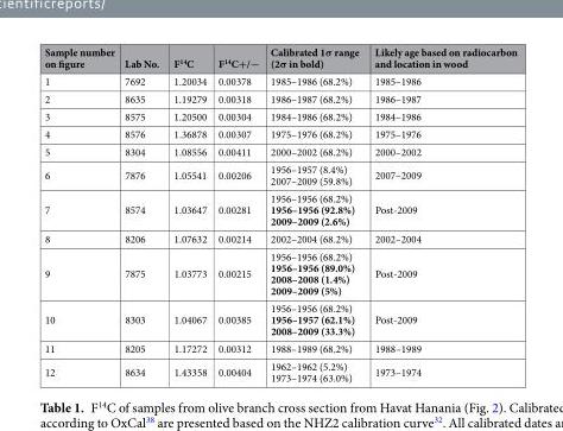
<table><thead><tr><td>Sample number on figure</td><td>Lab No.</td><td>F<sup>14</sup>C</td><td>F<sup>14</sup>C+/−</td><td>Calibrated 1σ range (2σ in bold)</td><td>Likely age based on radiocarbon and location in wood</td></tr></thead><tbody><tr><td>1</td><td>7692</td><td>1.20034</td><td>0.00378</td><td>1985–1986 (68.2%)</td><td>1985–1986</td></tr><tr><td>2</td><td>8635</td><td>1.19279</td><td>0.00318</td><td>1986–1987 (68.2%)</td><td>1986–1987</td></tr><tr><td>3</td><td>8575</td><td>1.20500</td><td>0.00304</td><td>1984–1986 (68.2%)</td><td>1984–1986</td></tr><tr><td>4</td><td>8576</td><td>1.36878</td><td>0.00307</td><td>1975–1976 (68.2%)</td><td>1975–1976</td></tr><tr><td>5</td><td>8304</td><td>1.08556</td><td>0.00411</td><td>2000–2002 (68.2%)</td><td>2000–2002</td></tr><tr><td>6</td><td>7876</td><td>1.05541</td><td>0.00206</td><td>1956–1957 (8.4%) 2007–2009 (59.8%)</td><td>2007–2009</td></tr><tr><td>7</td><td>8574</td><td>1.03647</td><td>0.00281</td><td>1956–1956 (68.2%) 1956–1956 (92.8%) 2009–2009 (2.6%)</td><td>Post-2009</td></tr><tr><td>8</td><td>8206</td><td>1.07632</td><td>0.00214</td><td>2002–2004 (68.2%)</td><td>2002–2004</td></tr><tr><td>9</td><td>7875</td><td>1.03773</td><td>0.00215</td><td>1956–1956 (68.2%) 1956–1956 (89.0%) 2008–2008 (1.4%) 2009–2009 (5%)</td><td>Post-2009</td></tr><tr><td>10</td><td>8303</td><td>1.04067</td><td>0.00385</td><td>1956–1956 (68.2%) 1956–1957 (62.1%) 2008–2009 (33.3%)</td><td>Post-2009</td></tr><tr><td>11</td><td>8205</td><td>1.17272</td><td>0.00312</td><td>1988–1989 (68.2%)</td><td>1988–1989</td></tr><tr><td>12</td><td>8634</td><td>1.43358</td><td>0.00404</td><td>1962–1962 (5.2%) 1973–1974 (63.0%)</td><td>1973–1974</td></tr></tbody></table>